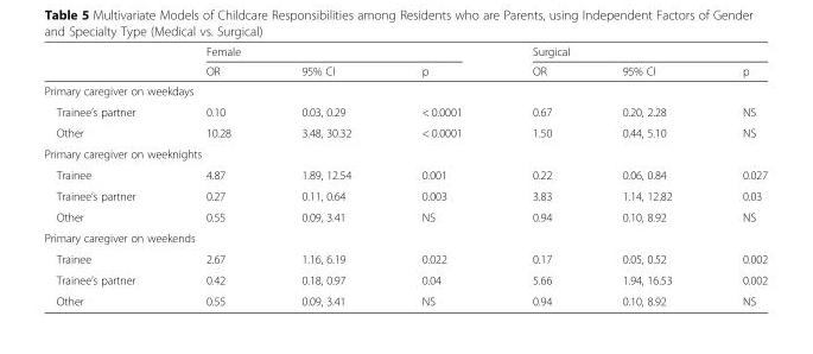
<table><thead><tr><td rowspan="2"></td><td colspan="3">Female</td><td colspan="3">Surgical</td></tr><tr><td>OR</td><td>95% CI</td><td>p</td><td>OR</td><td>95% CI</td><td>p</td></tr></thead><tbody><tr><td colspan="7">Primary caregiver on weekdays</td></tr><tr><td>Trainee’s partner</td><td>0.10</td><td>0.03, 0.29</td><td>&lt; 0.0001</td><td>0.67</td><td>0.20, 2.28</td><td>NS</td></tr><tr><td>Other</td><td>10.28</td><td>3.48, 30.32</td><td>&lt; 0.0001</td><td>1.50</td><td>0.44, 5.10</td><td>NS</td></tr><tr><td colspan="7">Primary caregiver on weeknights</td></tr><tr><td>Trainee</td><td>4.87</td><td>1.89, 12.54</td><td>0.001</td><td>0.22</td><td>0.06, 0.84</td><td>0.027</td></tr><tr><td>Trainee’s partner</td><td>0.27</td><td>0.11, 0.64</td><td>0.003</td><td>3.83</td><td>1.14, 12.82</td><td>0.03</td></tr><tr><td>Other</td><td>0.55</td><td>0.09, 3.41</td><td>NS</td><td>0.94</td><td>0.10, 8.92</td><td>NS</td></tr><tr><td colspan="7">Primary caregiver on weekends</td></tr><tr><td>Trainee</td><td>2.67</td><td>1.16, 6.19</td><td>0.022</td><td>0.17</td><td>0.05, 0.52</td><td>0.002</td></tr><tr><td>Trainee’s partner</td><td>0.42</td><td>0.18, 0.97</td><td>0.04</td><td>5.66</td><td>1.94, 16.53</td><td>0.002</td></tr><tr><td>Other</td><td>0.55</td><td>0.09, 3.41</td><td>NS</td><td>0.94</td><td>0.10, 8.92</td><td>NS</td></tr></tbody></table>